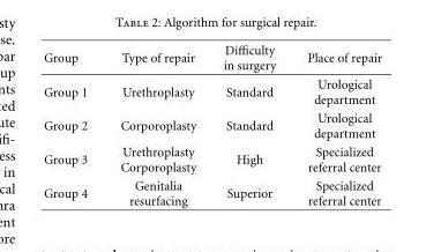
<table><thead><tr><td>Group</td><td>Type of repair</td><td>Difficulty in surgery</td><td>Place of repair</td></tr></thead><tbody><tr><td>Group 1</td><td>Urethroplasty</td><td>Standard</td><td>Urological department</td></tr><tr><td>Group 2</td><td>Corporoplasty</td><td>Standard</td><td>Urological department</td></tr><tr><td>Group 3</td><td>Urethroplasty Corporoplasty</td><td>High</td><td>Specialized referral center</td></tr><tr><td>Group 4</td><td>Genitalia resurfacing</td><td>Superior</td><td>Specialized referral center</td></tr></tbody></table>